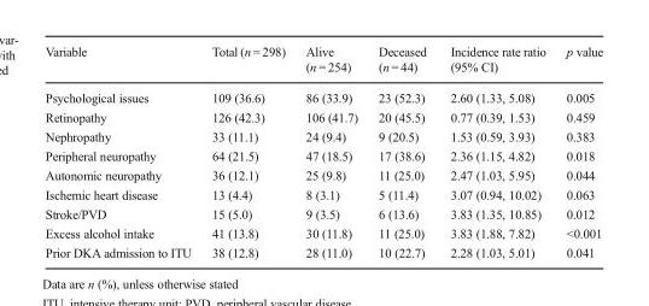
<table><thead><tr><td>Variable</td><td>Total (n = 298)</td><td>Alive (n = 254)</td><td>Deceased (n = 44)</td><td>Incidence rate ratio (95% CI)</td><td>p value</td></tr></thead><tbody><tr><td>Psychological issues</td><td>109 (36.6)</td><td>86 (33.9)</td><td>23 (52.3)</td><td>2.60 (1.33, 5.08)</td><td>0.005</td></tr><tr><td>Retinopathy</td><td>126 (42.3)</td><td>106 (41.7)</td><td>20 (45.5)</td><td>0.77 (0.39, 1.53)</td><td>0.459</td></tr><tr><td>Nephropathy</td><td>33 (11.1)</td><td>24 (9.4)</td><td>9 (20.5)</td><td>1.53 (0.59, 3.93)</td><td>0.383</td></tr><tr><td>Peripheral neuropathy</td><td>64 (21.5)</td><td>47 (18.5)</td><td>17 (38.6)</td><td>2.36 (1.15, 4.82)</td><td>0.018</td></tr><tr><td>Autonomic neuropathy</td><td>36 (12.1)</td><td>25 (9.8)</td><td>11 (25.0)</td><td>2.47 (1.03, 5.95)</td><td>0.044</td></tr><tr><td>Ischemic heart disease</td><td>13 (4.4)</td><td>8 (3.1)</td><td>5 (11.4)</td><td>3.07 (0.94, 10.02)</td><td>0.063</td></tr><tr><td>Stroke/PVD</td><td>15 (5.0)</td><td>9 (3.5)</td><td>6 (13.6)</td><td>3.83 (1.35, 10.85)</td><td>0.012</td></tr><tr><td>Excess alcohol intake</td><td>41 (13.8)</td><td>30 (11.8)</td><td>11 (25.0)</td><td>3.83 (1.88, 7.82)</td><td>&lt;0.001</td></tr><tr><td>Prior DKA admission to ITU</td><td>38 (12.8)</td><td>28 (11.0)</td><td>10 (22.7)</td><td>2.28 (1.03, 5.01)</td><td>0.041</td></tr></tbody></table>